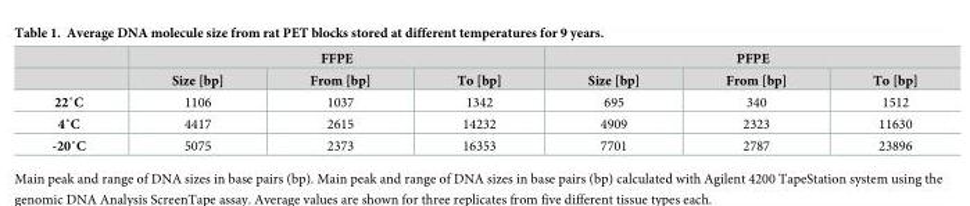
<table><thead><tr><td rowspan="2"></td><td colspan="3">FFPE</td><td colspan="3">PFPE</td></tr><tr><td>Size [bp]</td><td>From [bp]</td><td>To [bp]</td><td>Size [bp]</td><td>From [bp]</td><td>To [bp]</td></tr></thead><tbody><tr><td>22˚C</td><td>1106</td><td>1037</td><td>1342</td><td>695</td><td>340</td><td>1512</td></tr><tr><td>4˚C</td><td>4417</td><td>2615</td><td>14232</td><td>4909</td><td>2323</td><td>11630</td></tr><tr><td>-20˚C</td><td>5075</td><td>2373</td><td>16353</td><td>7701</td><td>2787</td><td>23896</td></tr></tbody></table>